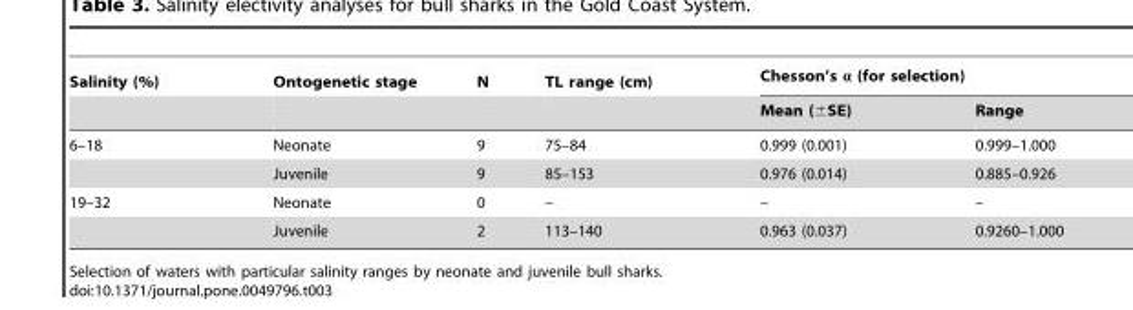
<table><thead><tr><td rowspan="2">Salinity (%)</td><td rowspan="2">Ontogenetic stage</td><td rowspan="2">N</td><td rowspan="2">TL range (cm)</td><td colspan="2">Chesson’s α (for selection)</td></tr><tr><td>Mean (±SE)</td><td>Range</td></tr></thead><tbody><tr><td rowspan="2">6–18</td><td>Neonate</td><td>9</td><td>75–84</td><td>0.999 (0.001)</td><td>0.999–1.000</td></tr><tr><td>Juvenile</td><td>9</td><td>85–153</td><td>0.976 (0.014)</td><td>0.885–0.926</td></tr><tr><td rowspan="2">19–32</td><td>Neonate</td><td>0</td><td>–</td><td>–</td><td>–</td></tr><tr><td>Juvenile</td><td>2</td><td>113–140</td><td>0.963 (0.037)</td><td>0.9260–1.000</td></tr></tbody></table>